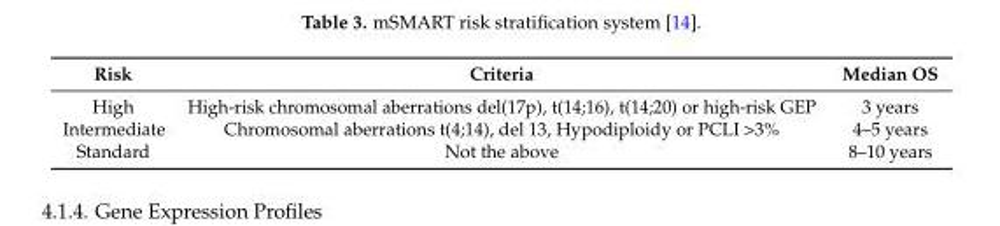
<table><thead><tr><td>Risk</td><td>Criteria</td><td>Median OS</td></tr></thead><tbody><tr><td>High</td><td>High-risk chromosomal aberrations del(17p), t(14;16), t(14;20) or high-risk GEP</td><td>3 years</td></tr><tr><td>Intermediate</td><td>Chromosomal aberrations t(4;14), del 13, Hypodiploidy or PCLI &gt;3%</td><td>4–5 years</td></tr><tr><td>Standard</td><td>Not the above</td><td>8–10 years</td></tr></tbody></table>